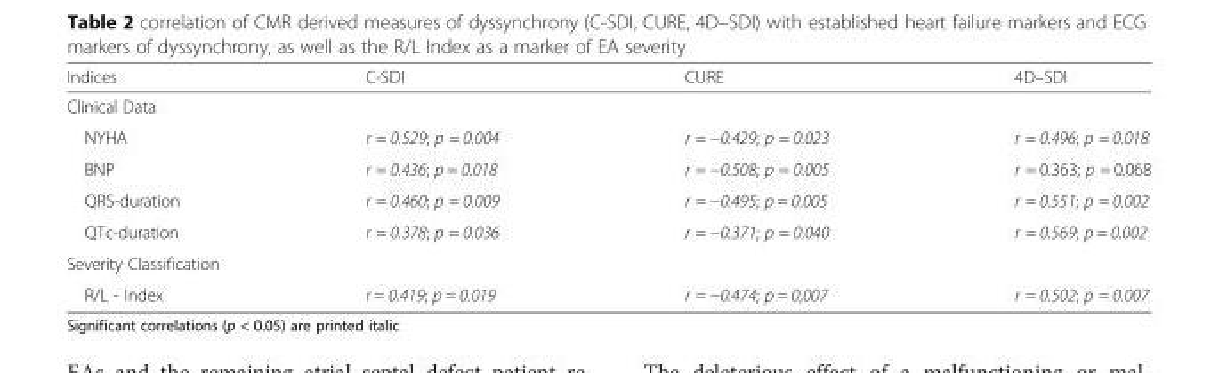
<table><thead><tr><td>Indices</td><td>C-SDI</td><td>CURE</td><td>4D–SDI</td></tr></thead><tbody><tr><td colspan="4">Clinical Data</td></tr><tr><td>NYHA</td><td>r = 0.529; p = 0.004</td><td>r = −0.429; p = 0.023</td><td>r = 0.496; p = 0.018</td></tr><tr><td>BNP</td><td>r = 0.436; p = 0.018</td><td>r = −0.508; p = 0.005</td><td>r = 0.363; p = 0.068</td></tr><tr><td>QRS-duration</td><td>r = 0.460; p = 0.009</td><td>r = −0.495; p = 0.005</td><td>r = 0.551; p = 0.002</td></tr><tr><td>QTc-duration</td><td>r = 0.378; p = 0.036</td><td>r = −0.371; p = 0.040</td><td>r = 0.569; p = 0.002</td></tr><tr><td colspan="4">Severity Classification</td></tr><tr><td>R/L - Index</td><td>r = 0.419; p = 0.019</td><td>r = −0.474; p = 0,007</td><td>r = 0.502; p = 0.007</td></tr></tbody></table>